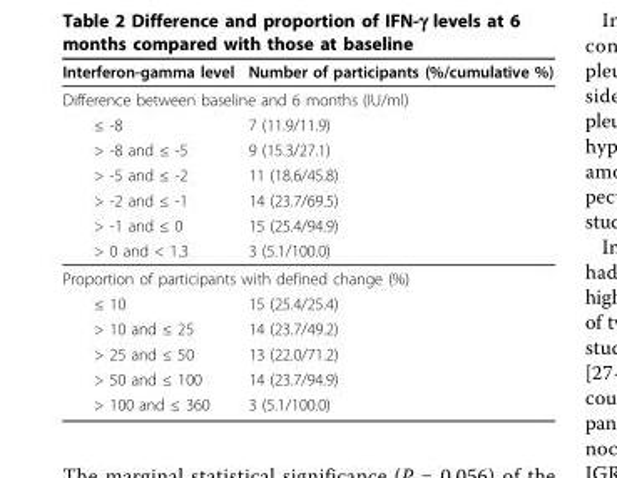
<table><thead><tr><td>Interferon-gamma level</td><td>Number of participants (%/cumulative %)</td></tr></thead><tbody><tr><td colspan="2">Difference between baseline and 6 months (IU/ml)</td></tr><tr><td>≤ -8</td><td>7 (11.9/11.9)</td></tr><tr><td>&gt; -8 and ≤ -5</td><td>9 (15.3/27.1)</td></tr><tr><td>&gt; -5 and ≤ -2</td><td>11 (18.6/45.8)</td></tr><tr><td>&gt; -2 and ≤ -1</td><td>14 (23.7/69.5)</td></tr><tr><td>&gt; -1 and ≤ 0</td><td>15 (25.4/94.9)</td></tr><tr><td>&gt; 0 and &lt; 1.3</td><td>3 (5.1/100.0)</td></tr><tr><td colspan="2">Proportion of participants with defined change (%)</td></tr><tr><td>≤ 10</td><td>15 (25.4/25.4)</td></tr><tr><td>&gt; 10 and ≤ 25</td><td>14 (23.7/49.2)</td></tr><tr><td>&gt; 25 and ≤ 50</td><td>13 (22.0/71.2)</td></tr><tr><td>&gt; 50 and ≤ 100</td><td>14 (23.7/94.9)</td></tr><tr><td>&gt; 100 and ≤ 360</td><td>3 (5.1/100.0)</td></tr></tbody></table>